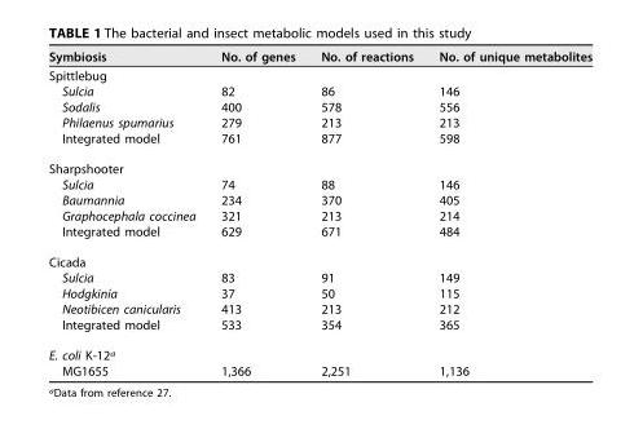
<table><thead><tr><td>Symbiosis</td><td>No. of genes</td><td>No. of reactions</td><td>No. of unique metabolites</td></tr></thead><tbody><tr><td colspan="4">Spittlebug</td></tr><tr><td>Sulcia</td><td>82</td><td>86</td><td>146</td></tr><tr><td>Sodalis</td><td>400</td><td>578</td><td>556</td></tr><tr><td>Philaenus spumarius</td><td>279</td><td>213</td><td>213</td></tr><tr><td>Integrated model</td><td>761</td><td>877</td><td>598</td></tr><tr><td colspan="4">Sharpshooter</td></tr><tr><td>Sulcia</td><td>74</td><td>88</td><td>146</td></tr><tr><td>Baumannia</td><td>234</td><td>370</td><td>405</td></tr><tr><td>Graphocephala coccinea</td><td>321</td><td>213</td><td>214</td></tr><tr><td>Integrated model</td><td>629</td><td>671</td><td>484</td></tr><tr><td colspan="4">Cicada</td></tr><tr><td>Sulcia</td><td>83</td><td>91</td><td>149</td></tr><tr><td>Hodgkinia</td><td>37</td><td>50</td><td>115</td></tr><tr><td>Neotibicen canicularis</td><td>413</td><td>213</td><td>212</td></tr><tr><td>Integrated model</td><td>533</td><td>354</td><td>365</td></tr><tr><td colspan="4">E. coli K-12<sup>a</sup></td></tr><tr><td>MG1655</td><td>1,366</td><td>2,251</td><td>1,136</td></tr></tbody></table>